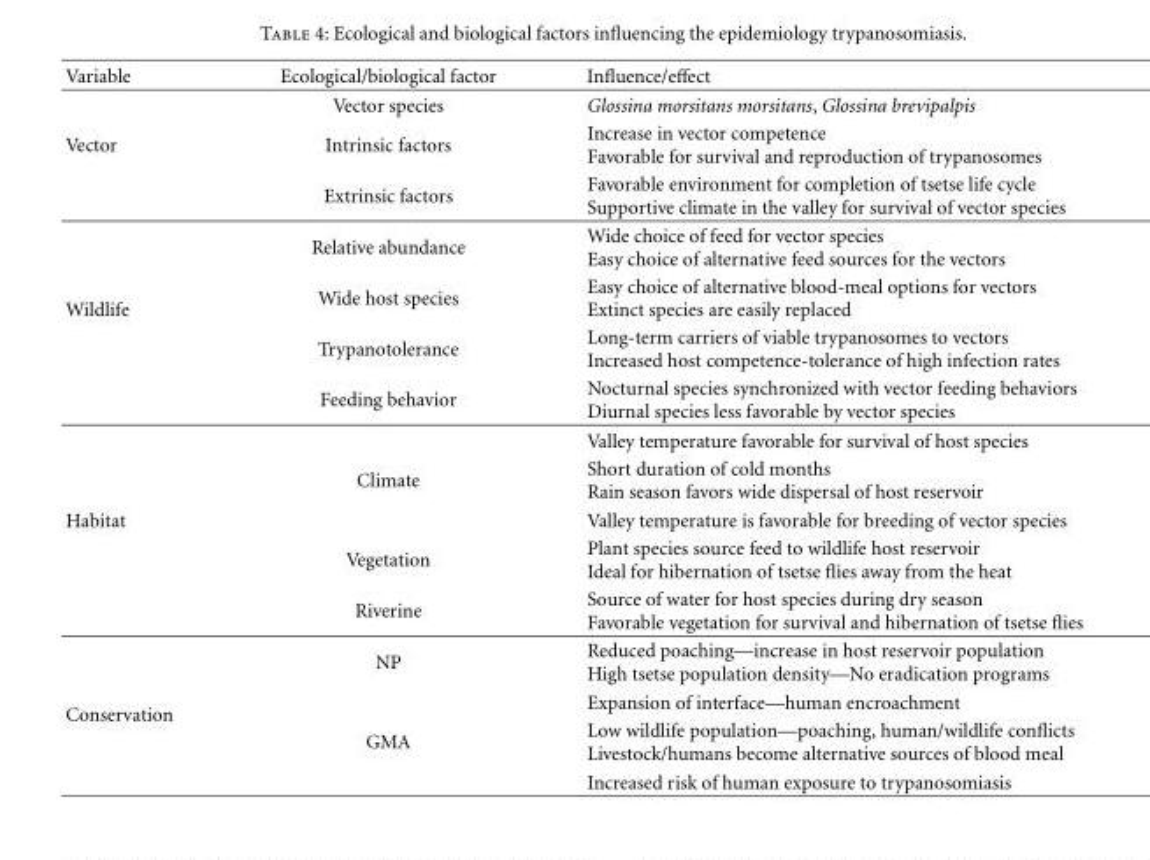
<table><thead><tr><td>Variable</td><td>Ecological/biological factor</td><td>Influence/effect</td></tr></thead><tbody><tr><td></td><td>Vector species</td><td>Glossina morsitans morsitans, Glossina brevipalpis</td></tr><tr><td rowspan="3">Vector</td><td>Intrinsic factors</td><td>Increase in vector competence Favorable for survival and reproduction of trypanosomes</td></tr><tr><td>Extrinsic factors</td><td>Favorable environment for completion of tsetse life cycle Supportive climate in the valley for survival of vector species</td></tr><tr><td>Relative abundance</td><td>Wide choice of feed for vector species Easy choice of alternative feed sources for the vectors</td></tr><tr><td rowspan="5">Wildlife</td><td>Wide host species</td><td>Easy choice of alternative blood-meal options for vectors Extinct species are easily replaced</td></tr><tr><td>Trypanotolerance</td><td>Long-term carriers of viable trypanosomes to vectors Increased host competence-tolerance of high infection rates</td></tr><tr><td>Feeding behavior</td><td>Nocturnal species synchronized with vector feeding behaviors Diurnal species less favorable by vector species</td></tr><tr><td></td><td>Valley temperature favorable for survival of host species</td></tr><tr><td>Climate</td><td>Short duration of cold months Rain season favors wide dispersal of host reservoir</td></tr><tr><td rowspan="4">Habitat</td><td></td><td>Valley temperature is favorable for breeding of vector species</td></tr><tr><td>Vegetation</td><td>Plant species source feed to wildlife host reservoir Ideal for hibernation of tsetse flies away from the heat</td></tr><tr><td>Riverine</td><td>Source of water for host species during dry season Favorable vegetation for survival and hibernation of tsetse flies</td></tr><tr><td>NP</td><td>Reduced poaching—increase in host reservoir population High tsetse population density—No eradication programs</td></tr><tr><td rowspan="3">Conservation</td><td></td><td>Expansion of interface—human encroachment</td></tr><tr><td>GMA</td><td>Low wildlife population—poaching, human/wildlife conflicts Livestock/humans become alternative sources of blood meal</td></tr><tr><td></td><td>Increased risk of human exposure to trypanosomiasis</td></tr></tbody></table>